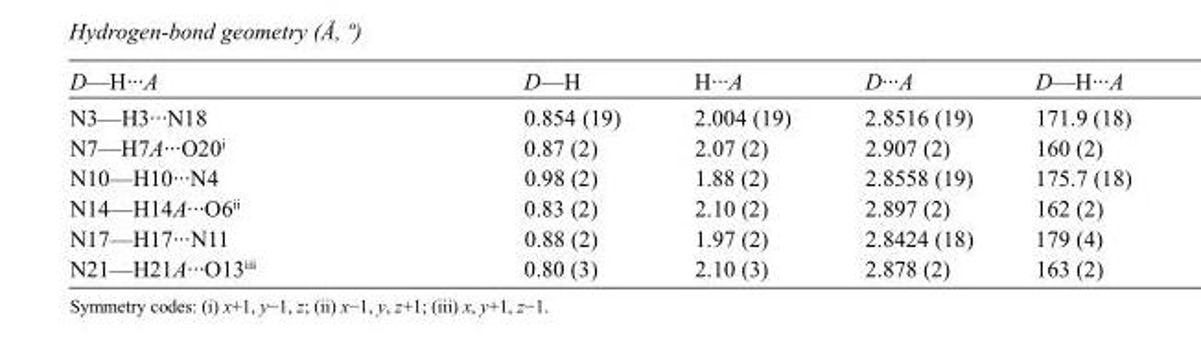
<table><tbody><tr><td>D—H···A</td><td>D—H</td><td>H···A</td><td>D···A</td><td>D—H···A</td></tr><tr><td>N3—H3···N18</td><td>0.854 (19)</td><td>2.004 (19)</td><td>2.8516 (19)</td><td>171.9 (18)</td></tr><tr><td>N7—H7A···O20<sup>i</sup></td><td>0.87 (2)</td><td>2.07 (2)</td><td>2.907 (2)</td><td>160 (2)</td></tr><tr><td>N10—H10···N4</td><td>0.98 (2)</td><td>1.88 (2)</td><td>2.8558 (19)</td><td>175.7 (18)</td></tr><tr><td>N14—H14A···O6<sup>ii</sup></td><td>0.83 (2)</td><td>2.10 (2)</td><td>2.897 (2)</td><td>162 (2)</td></tr><tr><td>N17—H17···N11</td><td>0.88 (2)</td><td>1.97 (2)</td><td>2.8424 (18)</td><td>179 (4)</td></tr><tr><td>N21—H21A···O13<sup>iii</sup></td><td>0.80 (3)</td><td>2.10 (3)</td><td>2.878 (2)</td><td>163 (2)</td></tr></tbody></table>